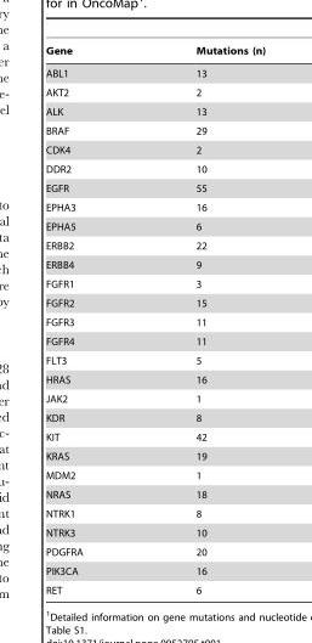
<table><thead><tr><td>Gene</td><td>Mutations (n)</td></tr></thead><tbody><tr><td>ABL1</td><td>13</td></tr><tr><td>AKT2</td><td>2</td></tr><tr><td>ALK</td><td>13</td></tr><tr><td>BRAF</td><td>29</td></tr><tr><td>CDK4</td><td>2</td></tr><tr><td>DDR2</td><td>10</td></tr><tr><td>EGFR</td><td>55</td></tr><tr><td>EPHA3</td><td>16</td></tr><tr><td>EPHA5</td><td>6</td></tr><tr><td>ERBB2</td><td>22</td></tr><tr><td>ERBB4</td><td>9</td></tr><tr><td>FGFR1</td><td>3</td></tr><tr><td>FGFR2</td><td>15</td></tr><tr><td>FGFR3</td><td>11</td></tr><tr><td>FGFR4</td><td>11</td></tr><tr><td>FLT3</td><td>5</td></tr><tr><td>HRAS</td><td>16</td></tr><tr><td>JAK2</td><td>1</td></tr><tr><td>KDR</td><td>8</td></tr><tr><td>KIT</td><td>42</td></tr><tr><td>KRAS</td><td>19</td></tr><tr><td>MDM2</td><td>1</td></tr><tr><td>NRAS</td><td>18</td></tr><tr><td>NTRK1</td><td>8</td></tr><tr><td>NTRK3</td><td>10</td></tr><tr><td>PDGFRA</td><td>20</td></tr><tr><td>PIK3CA</td><td>16</td></tr><tr><td>RET</td><td>6</td></tr></tbody></table>